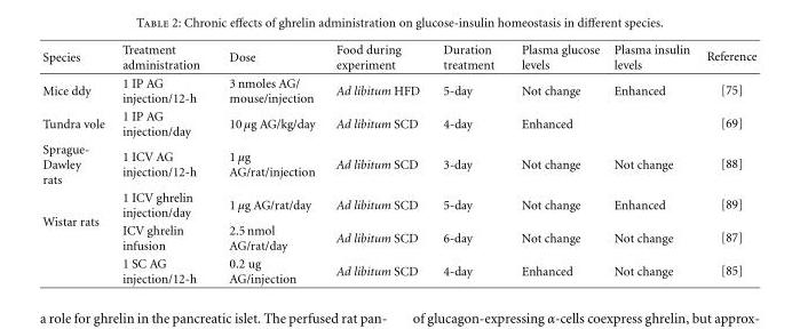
<table><thead><tr><td>Species</td><td>Treatment administration</td><td>Dose</td><td>Food during experiment</td><td>Duration treatment</td><td>Plasma glucose levels</td><td>Plasma insulin levels</td><td>Reference</td></tr></thead><tbody><tr><td>Mice ddy</td><td>1 IP AG injection/12-h</td><td>3 nmoles AG/ mouse/injection</td><td>Ad libitum HFD</td><td>5-day</td><td>Not change</td><td>Enhanced</td><td>[75]</td></tr><tr><td>Tundra vole</td><td>1 IP AG injection/day</td><td>10 μg AG/kg/day</td><td>Ad libitum SCD</td><td>4-day</td><td>Enhanced</td><td></td><td>[69]</td></tr><tr><td>Sprague- Dawley rats</td><td>1 ICV AG injection/12-h</td><td>1 μg AG/rat/injection</td><td>Ad libitum SCD</td><td>3-day</td><td>Not change</td><td>Not change</td><td>[88]</td></tr><tr><td rowspan="3">Wistar rats</td><td>1 ICV ghrelin injection/day</td><td>1 μg AG/rat/day</td><td>Ad libitum SCD</td><td>5-day</td><td>Not change</td><td>Enhanced</td><td>[89]</td></tr><tr><td>ICV ghrelin infusion</td><td>2.5 nmol AG/rat/day</td><td>Ad libitum SCD</td><td>6-day</td><td>Not change</td><td>Not change</td><td>[87]</td></tr><tr><td>1 SC AG injection/12-h</td><td>0.2 ug AG/injection</td><td>Ad libitum SCD</td><td>4-day</td><td>Enhanced</td><td>Not change</td><td>[85]</td></tr></tbody></table>